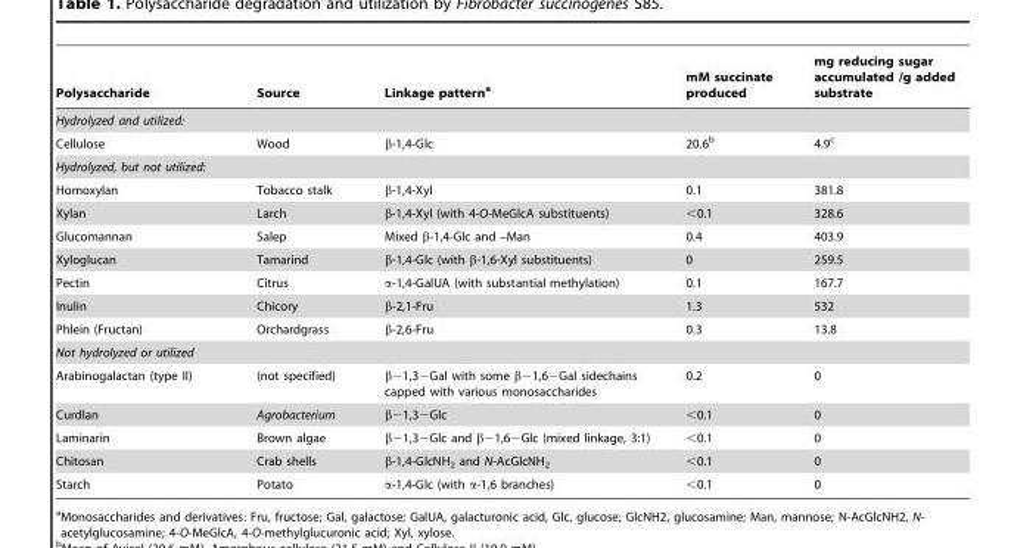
<table><thead><tr><td>Polysaccharide</td><td>Source</td><td>Linkage pattern<sup>a</sup></td><td>mM succinate produced</td><td>mg reducing sugar accumulated /g added substrate</td></tr></thead><tbody><tr><td colspan="5">Hydrolyzed and utilized:</td></tr><tr><td>Cellulose</td><td>Wood</td><td>β-1,4-Glc</td><td>20.6<sup>b</sup></td><td>4.9<sup>c</sup></td></tr><tr><td colspan="5">Hydrolyzed, but not utilized:</td></tr><tr><td>Homoxylan</td><td>Tobacco stalk</td><td>β-1,4-Xyl</td><td>0.1</td><td>381.8</td></tr><tr><td>Xylan</td><td>Larch</td><td>β-1,4-Xyl (with 4-O-MeGlcA substituents)</td><td>&lt;0.1</td><td>328.6</td></tr><tr><td>Glucomannan</td><td>Salep</td><td>Mixed β-1,4-Glc and –Man</td><td>0.4</td><td>403.9</td></tr><tr><td>Xyloglucan</td><td>Tamarind</td><td>β-1,4-Glc (with β-1,6-Xyl substituents)</td><td>0</td><td>259.5</td></tr><tr><td>Pectin</td><td>Citrus</td><td>α-1,4-GalUA (with substantial methylation)</td><td>0.1</td><td>167.7</td></tr><tr><td>Inulin</td><td>Chicory</td><td>β-2,1-Fru</td><td>1.3</td><td>532</td></tr><tr><td>Phlein (Fructan)</td><td>Orchardgrass</td><td>β-2,6-Fru</td><td>0.3</td><td>13.8</td></tr><tr><td colspan="5">Not hydrolyzed or utilized</td></tr><tr><td>Arabinogalactan (type II)</td><td>(not specified)</td><td>β−1,3−Gal with some β−1,6−Gal sidechains capped with various monosaccharides</td><td>0.2</td><td>0</td></tr><tr><td>Curdlan</td><td>Agrobacterium</td><td>β−1,3−Glc</td><td>&lt;0.1</td><td>0</td></tr><tr><td>Laminarin</td><td>Brown algae</td><td>β−1,3−Glc and β−1,6−Glc (mixed linkage, 3:1)</td><td>&lt;0.1</td><td>0</td></tr><tr><td>Chitosan</td><td>Crab shells</td><td>β-1,4-GlcNH<sub>2</sub> and N-AcGlcNH<sub>2</sub></td><td>&lt;0.1</td><td>0</td></tr><tr><td>Starch</td><td>Potato</td><td>α-1,4-Glc (with α-1,6 branches)</td><td>&lt;0.1</td><td>0</td></tr></tbody></table>